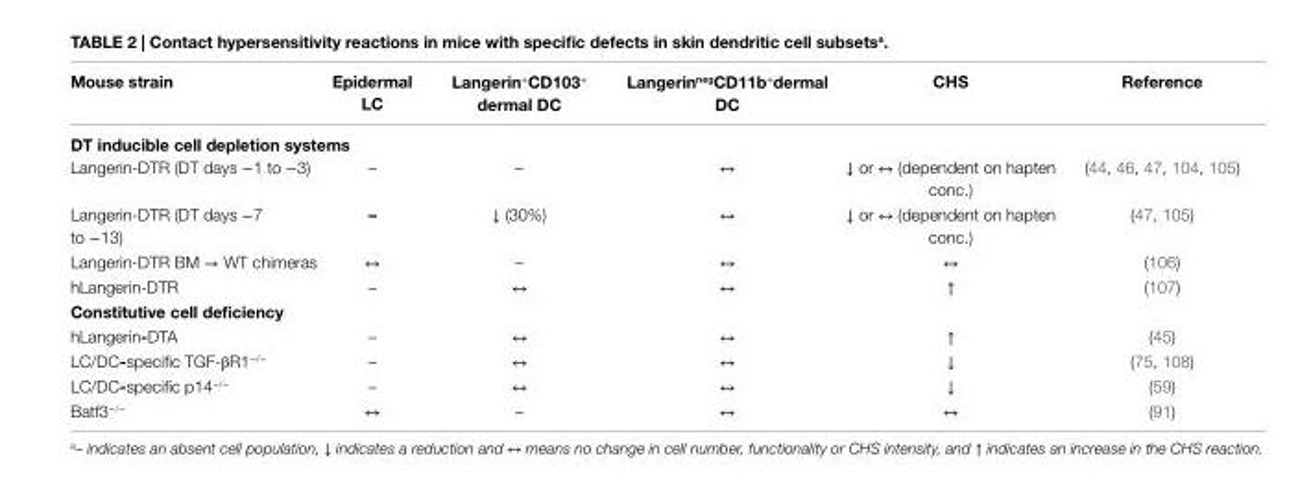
<table><thead><tr><td>Mouse strain</td><td>epidermal LC</td><td>Langerin<sup>+</sup>CD103<sup>+</sup> dermal DC</td><td>Langerin<sup>neg</sup>CD11b<sup>+</sup>dermal DC</td><td>CHS</td><td>Reference</td></tr></thead><tbody><tr><td colspan="6">DT inducible cell depletion systems</td></tr><tr><td>Langerin-DTR (DT days −1 to −3)</td><td>–</td><td>–</td><td>↔</td><td>↓ or ↔ (dependent on hapten conc.)</td><td>(44, 46, 47, 104, 105)</td></tr><tr><td>Langerin-DTR (DT days −7 to −13)</td><td>–</td><td>↓ (30%)</td><td>↔</td><td>↓ or ↔ (dependent on hapten conc.)</td><td>(47, 105)</td></tr><tr><td>Langerin-DTR BM → WT chimeras</td><td>↔</td><td>–</td><td>↔</td><td>↔</td><td>(106)</td></tr><tr><td>hLangerin-DTR</td><td>–</td><td>↔</td><td>↔</td><td>↑</td><td>(107)</td></tr><tr><td colspan="6">Constitutive cell deficiency</td></tr><tr><td>hLangerin-DTA</td><td>–</td><td>↔</td><td>↔</td><td>↑</td><td>(45)</td></tr><tr><td>LC/DC-specific TGF-βR1<sup>−/−</sup></td><td>–</td><td>↔</td><td>↔</td><td>↓</td><td>(75, 108)</td></tr><tr><td>LC/DC-specific p14<sup>−/−</sup></td><td>–</td><td>↔</td><td>↔</td><td>↓</td><td>(59)</td></tr><tr><td>Batf3<sup>−/−</sup></td><td>↔</td><td>–</td><td>↔</td><td>↔</td><td>(91)</td></tr></tbody></table>